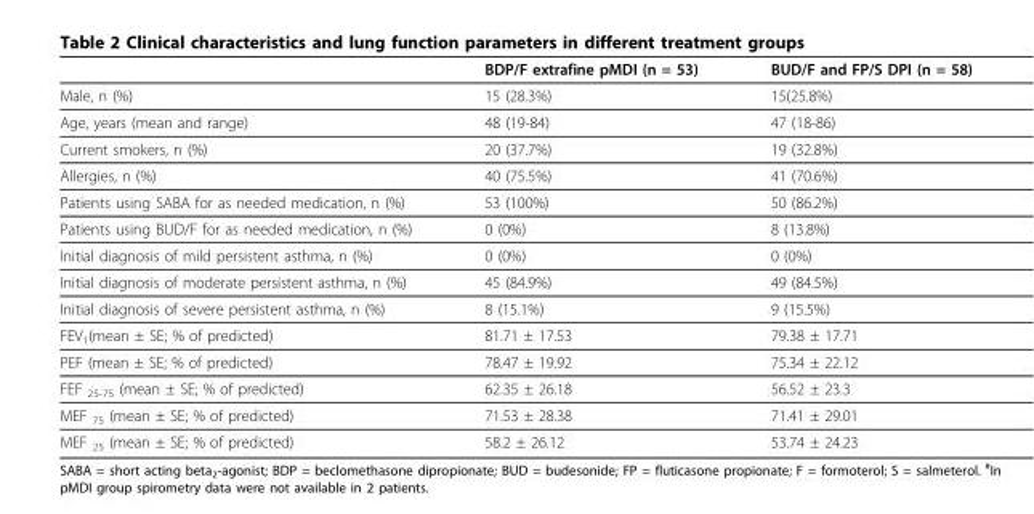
<table><thead><tr><td></td><td>BDP/F extrafine pMDI (n = 53)</td><td>BUD/F and FP/S DPI (n = 58)</td></tr></thead><tbody><tr><td>Male, n (%)</td><td>15 (28.3%)</td><td>15(25.8%)</td></tr><tr><td>Age, years (mean and range)</td><td>48 (19-84)</td><td>47 (18-86)</td></tr><tr><td>Current smokers, n (%)</td><td>20 (37.7%)</td><td>19 (32.8%)</td></tr><tr><td>Allergies, n (%)</td><td>40 (75.5%)</td><td>41 (70.6%)</td></tr><tr><td>Patients using SABA for as needed medication, n (%)</td><td>53 (100%)</td><td>50 (86.2%)</td></tr><tr><td>Patients using BUD/F for as needed medication, n (%)</td><td>0 (0%)</td><td>8 (13.8%)</td></tr><tr><td>Initial diagnosis of mild persistent asthma, n (%)</td><td>0 (0%)</td><td>0 (0%)</td></tr><tr><td>Initial diagnosis of moderate persistent asthma, n (%)</td><td>45 (84.9%)</td><td>49 (84.5%)</td></tr><tr><td>Initial diagnosis of severe persistent asthma, n (%)</td><td>8 (15.1%)</td><td>9 (15.5%)</td></tr><tr><td>FEV<sub>1</sub>(mean ± SE; % of predicted)</td><td>81.71 ± 17.53</td><td>79.38 ± 17.71</td></tr><tr><td>PEF (mean ± SE; % of predicted)</td><td>78.47 ± 19.92</td><td>75.34 ± 22.12</td></tr><tr><td>FEF <sub>25-75</sub> (mean ± SE; % of predicted)</td><td>62.35 ± 26.18</td><td>56.52 ± 23.3</td></tr><tr><td>MEF <sub>75</sub> (mean ± SE; % of predicted)</td><td>71.53 ± 28.38</td><td>71.41 ± 29.01</td></tr><tr><td>MEF <sub>25</sub> (mean ± SE; % of predicted)</td><td>58.2 ± 26.12</td><td>53.74 ± 24.23</td></tr></tbody></table>